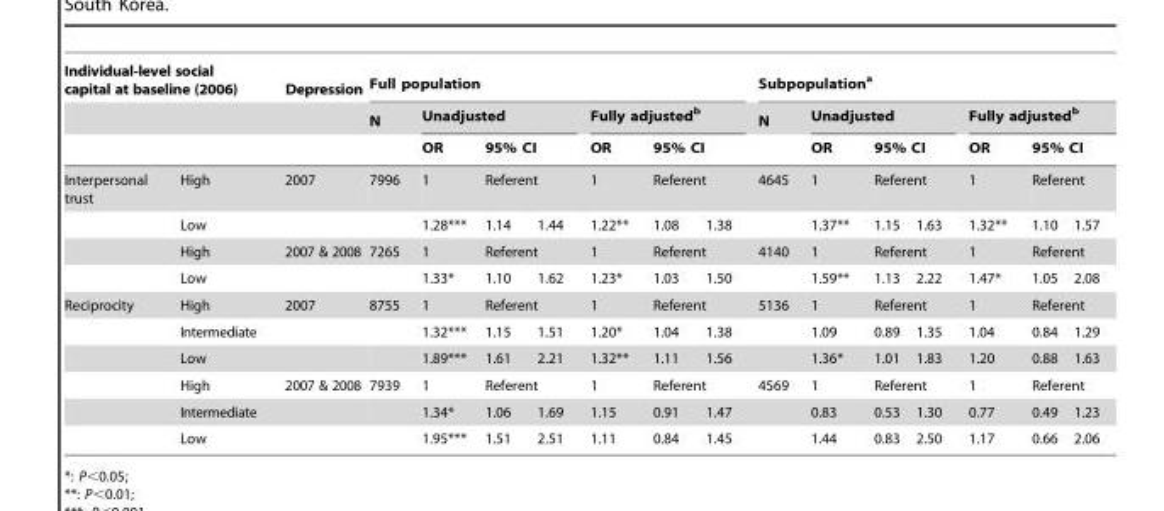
<table><thead><tr><td colspan="2">Individual-level social capital at baseline (2006)</td><td rowspan="5">Depression 2007</td><td colspan="7">Full population</td><td colspan="7">Subpopulation<sup>a</sup></td></tr><tr><td rowspan="4">Interpersonal trust</td><td rowspan="4">High Low</td><td rowspan="4">N 7996</td><td colspan="3">Unadjusted</td><td colspan="3">Fully adjusted<sup>b</sup></td><td rowspan="4">N 4645</td><td colspan="3">Unadjusted</td><td colspan="3">Fully adjusted<sup>b</sup></td></tr><tr><td rowspan="3">OR 1 1.28***</td><td rowspan="2" colspan="2">95% CI Referent</td><td rowspan="3">OR 1 1.22**</td><td rowspan="2" colspan="2">95% CI Referent</td><td rowspan="3">OR 1 1.37**</td><td rowspan="2" colspan="2">95% CI Referent</td><td rowspan="3">OR 1 1.32**</td><td rowspan="2" colspan="2">95% CI Referent</td></tr><tr></tr><tr><td>1.14</td><td>1.44</td><td>1.08</td><td>1.38</td><td>1.15</td><td>1.63</td><td>1.10</td><td>1.57</td></tr></thead><tbody><tr><td></td><td>High</td><td>2007 &amp; 2008</td><td>7265</td><td>1</td><td colspan="2">Referent</td><td>1</td><td colspan="2">Referent</td><td>4140</td><td>1</td><td colspan="2">Referent</td><td>1</td><td colspan="2">Referent</td></tr><tr><td></td><td>Low</td><td></td><td></td><td>1.33*</td><td>1.10</td><td>1.62</td><td>1.23*</td><td>1.03</td><td>1.50</td><td></td><td>1.59**</td><td>1.13</td><td>2.22</td><td>1.47*</td><td>1.05</td><td>2.08</td></tr><tr><td rowspan="6">Reciprocity</td><td>High</td><td>2007</td><td>8755</td><td>1</td><td colspan="2">Referent</td><td>1</td><td colspan="2">Referent</td><td>5136</td><td>1</td><td colspan="2">Referent</td><td>1</td><td colspan="2">Referent</td></tr><tr><td>Intermediate</td><td></td><td></td><td>1.32***</td><td>1.15</td><td>1.51</td><td>1.20*</td><td>1.04</td><td>1.38</td><td></td><td>1.09</td><td>0.89</td><td>1.35</td><td>1.04</td><td>0.84</td><td>1.29</td></tr><tr><td>Low</td><td></td><td></td><td>1.89***</td><td>1.61</td><td>2.21</td><td>1.32**</td><td>1.11</td><td>1.56</td><td></td><td>1.36*</td><td>1.01</td><td>1.83</td><td>1.20</td><td>0.88</td><td>1.63</td></tr><tr><td>High</td><td>2007 &amp; 2008</td><td>7939</td><td>1</td><td colspan="2">Referent</td><td>1</td><td colspan="2">Referent</td><td>4569</td><td>1</td><td colspan="2">Referent</td><td>1</td><td colspan="2">Referent</td></tr><tr><td>Intermediate</td><td></td><td></td><td>1.34*</td><td>1.06</td><td>1.69</td><td>1.15</td><td>0.91</td><td>1.47</td><td></td><td>0.83</td><td>0.53</td><td>1.30</td><td>0.77</td><td>0.49</td><td>1.23</td></tr><tr><td>Low</td><td></td><td></td><td>1.95***</td><td>1.51</td><td>2.51</td><td>1.11</td><td>0.84</td><td>1.45</td><td></td><td>1.44</td><td>0.83</td><td>2.50</td><td>1.17</td><td>0.66</td><td>2.06</td></tr></tbody></table>